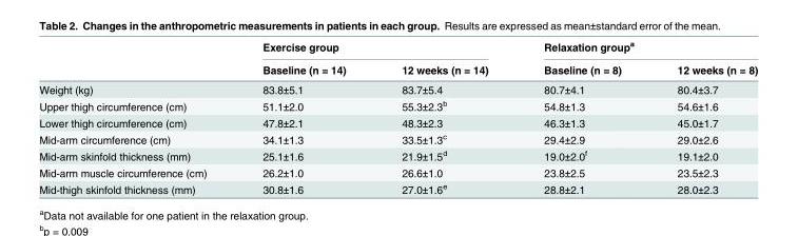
<table><thead><tr><td rowspan="2"></td><td colspan="2">Exercise group</td><td colspan="2">Relaxation group<sup>a</sup></td></tr><tr><td>Baseline (n = 14)</td><td>12 weeks (n = 14)</td><td>Baseline (n = 8)</td><td>12 weeks (n = 8)</td></tr></thead><tbody><tr><td>Weight (kg)</td><td>83.8±5.1</td><td>83.7±5.4</td><td>80.7±4.1</td><td>80.4±3.7</td></tr><tr><td>Upper thigh circumference (cm)</td><td>51.1±2.0</td><td>55.3±2.3<sup>b</sup></td><td>54.8±1.3</td><td>54.6±1.6</td></tr><tr><td>Lower thigh circumference (cm)</td><td>47.8±2.1</td><td>48.3±2.3</td><td>46.3±1.3</td><td>45.0±1.7</td></tr><tr><td>Mid-arm circumference (cm)</td><td>34.1±1.3</td><td>33.5±1.3<sup>c</sup></td><td>29.4±2.9</td><td>29.0±2.6</td></tr><tr><td>Mid-arm skinfold thickness (mm)</td><td>25.1±1.6</td><td>21.9±1.5<sup>d</sup></td><td>19.0±2.0<sup>f</sup></td><td>19.1±2.0</td></tr><tr><td>Mid-arm muscle circumference (cm)</td><td>26.2±1.0</td><td>26.6±1.0</td><td>23.8±2.5</td><td>23.5±2.3</td></tr><tr><td>Mid-thigh skinfold thickness (mm)</td><td>30.8±1.6</td><td>27.0±1.6<sup>e</sup></td><td>28.8±2.1</td><td>28.0±2.3</td></tr></tbody></table>